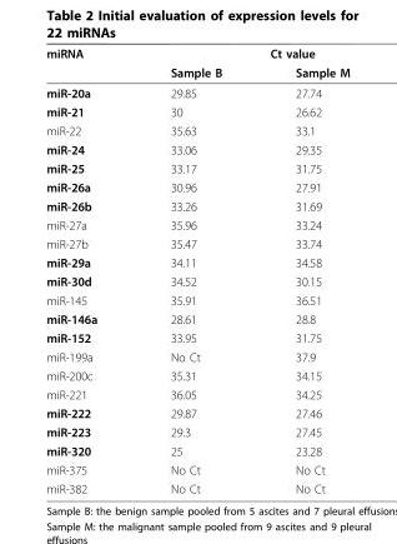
<table><thead><tr><td rowspan="2">miRNA</td><td colspan="2">Ct value</td></tr><tr><td>Sample B</td><td>Sample M</td></tr></thead><tbody><tr><td>miR-20a</td><td>29.85</td><td>27.74</td></tr><tr><td>miR-21</td><td>30</td><td>26.62</td></tr><tr><td>miR-22</td><td>35.63</td><td>33.1</td></tr><tr><td>miR-24</td><td>33.06</td><td>29.35</td></tr><tr><td>miR-25</td><td>33.17</td><td>31.75</td></tr><tr><td>miR-26a</td><td>30.96</td><td>27.91</td></tr><tr><td>miR-26b</td><td>33.26</td><td>31.69</td></tr><tr><td>miR-27a</td><td>35.96</td><td>33.24</td></tr><tr><td>miR-27b</td><td>35.47</td><td>33.74</td></tr><tr><td>miR-29a</td><td>34.11</td><td>34.58</td></tr><tr><td>miR-30d</td><td>34.52</td><td>30.15</td></tr><tr><td>miR-145</td><td>35.91</td><td>36.51</td></tr><tr><td>miR-146a</td><td>28.61</td><td>28.8</td></tr><tr><td>miR-152</td><td>33.95</td><td>31.75</td></tr><tr><td>miR-199a</td><td>No Ct</td><td>37.9</td></tr><tr><td>miR-200c</td><td>35.31</td><td>34.15</td></tr><tr><td>miR-221</td><td>36.05</td><td>34.25</td></tr><tr><td>miR-222</td><td>29.87</td><td>27.46</td></tr><tr><td>miR-223</td><td>29.3</td><td>27.45</td></tr><tr><td>miR-320</td><td>25</td><td>23.28</td></tr><tr><td>miR-375</td><td>No Ct</td><td>No Ct</td></tr><tr><td>miR-382</td><td>No Ct</td><td>No Ct</td></tr></tbody></table>